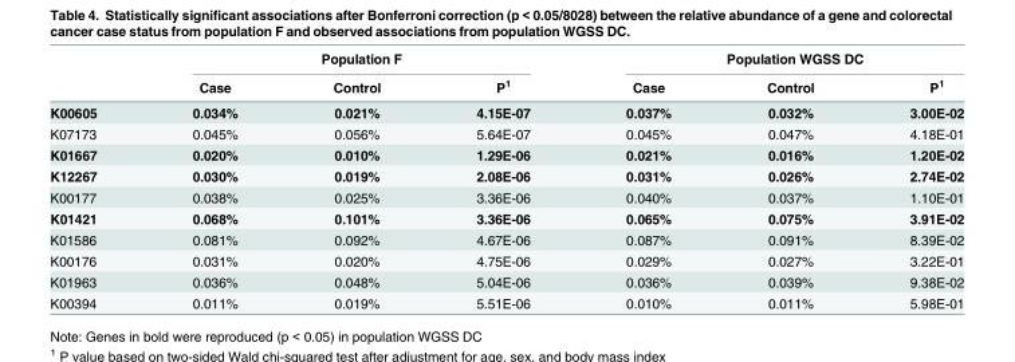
<table><thead><tr><td rowspan="2"></td><td colspan="3">Population F</td><td colspan="3">Population WGSS DC</td></tr><tr><td>Case</td><td>Control</td><td>P<sup>1</sup></td><td>Case</td><td>Control</td><td>P<sup>1</sup></td></tr></thead><tbody><tr><td>K00605</td><td>0.034%</td><td>0.021%</td><td>4.15E-07</td><td>0.037%</td><td>0.032%</td><td>3.00E-02</td></tr><tr><td>K07173</td><td>0.045%</td><td>0.056%</td><td>5.64E-07</td><td>0.045%</td><td>0.047%</td><td>4.18E-01</td></tr><tr><td>K01667</td><td>0.020%</td><td>0.010%</td><td>1.29E-06</td><td>0.021%</td><td>0.016%</td><td>1.20E-02</td></tr><tr><td>K12267</td><td>0.030%</td><td>0.019%</td><td>2.08E-06</td><td>0.031%</td><td>0.026%</td><td>2.74E-02</td></tr><tr><td>K00177</td><td>0.038%</td><td>0.025%</td><td>3.36E-06</td><td>0.040%</td><td>0.037%</td><td>1.10E-01</td></tr><tr><td>K01421</td><td>0.068%</td><td>0.101%</td><td>3.36E-06</td><td>0.065%</td><td>0.075%</td><td>3.91E-02</td></tr><tr><td>K01586</td><td>0.081%</td><td>0.092%</td><td>4.67E-06</td><td>0.087%</td><td>0.091%</td><td>8.39E-02</td></tr><tr><td>K00176</td><td>0.031%</td><td>0.020%</td><td>4.75E-06</td><td>0.029%</td><td>0.027%</td><td>3.22E-01</td></tr><tr><td>K01963</td><td>0.036%</td><td>0.048%</td><td>5.04E-06</td><td>0.036%</td><td>0.039%</td><td>9.38E-02</td></tr><tr><td>K00394</td><td>0.011%</td><td>0.019%</td><td>5.51E-06</td><td>0.010%</td><td>0.011%</td><td>5.98E-01</td></tr></tbody></table>